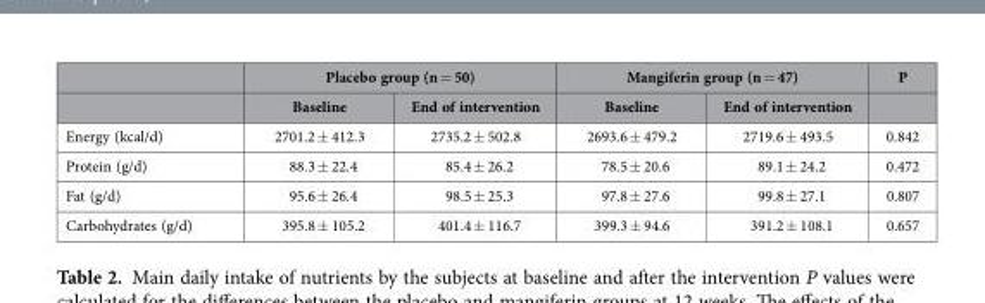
<table><thead><tr><td rowspan="2"></td><td colspan="2">Placebo group (n = 50)</td><td colspan="2">Mangiferin group (n = 47)</td><td rowspan="2">P</td></tr><tr><td>Baseline</td><td>End of intervention</td><td>Baseline</td><td>End of intervention</td></tr></thead><tbody><tr><td>Energy (kcal/d)</td><td>2701.2 ± 412.3</td><td>2735.2 ± 502.8</td><td>2693.6 ± 479.2</td><td>2719.6 ± 493.5</td><td>0.842</td></tr><tr><td>Protein (g/d)</td><td>88.3 ± 22.4</td><td>85.4 ± 26.2</td><td>78.5 ± 20.6</td><td>89.1 ± 24.2</td><td>0.472</td></tr><tr><td>Fat (g/d)</td><td>95.6 ± 26.4</td><td>98.5 ± 25.3</td><td>97.8 ± 27.6</td><td>99.8 ± 27.1</td><td>0.807</td></tr><tr><td>Carbohydrates (g/d)</td><td>395.8 ± 105.2</td><td>401.4 ± 116.7</td><td>399.3 ± 94.6</td><td>391.2 ± 108.1</td><td>0.657</td></tr></tbody></table>